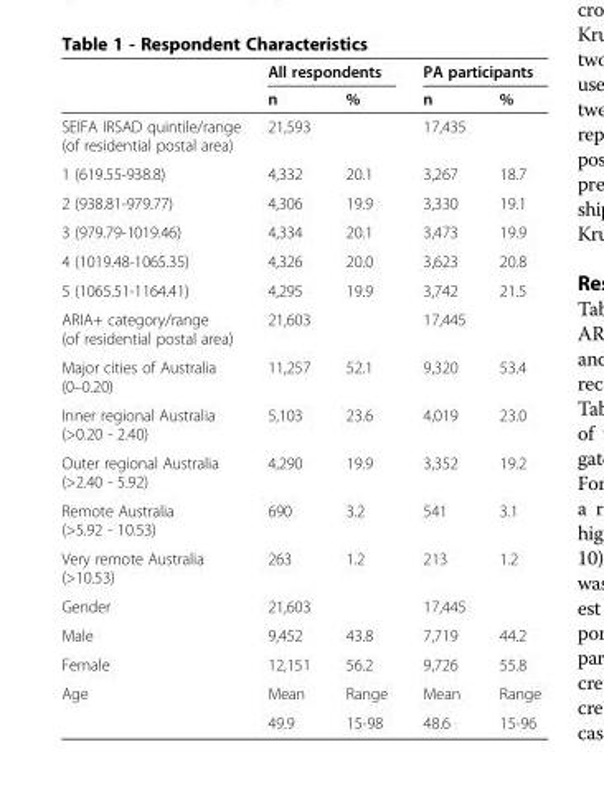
<table><thead><tr><td rowspan="2"></td><td colspan="2">All respondents</td><td colspan="2">PA participants</td></tr><tr><td>n</td><td>%</td><td>n</td><td>%</td></tr></thead><tbody><tr><td>SEIFA IRSAD quintile/range (of residential postal area)</td><td>21,593</td><td></td><td>17,435</td><td></td></tr><tr><td>1 (619.55-938.8)</td><td>4,332</td><td>20.1</td><td>3,267</td><td>18.7</td></tr><tr><td>2 (938.81-979.77)</td><td>4,306</td><td>19.9</td><td>3,330</td><td>19.1</td></tr><tr><td>3 (979.79-1019.46)</td><td>4,334</td><td>20.1</td><td>3,473</td><td>19.9</td></tr><tr><td>4 (1019.48-1065.35)</td><td>4,326</td><td>20.0</td><td>3,623</td><td>20.8</td></tr><tr><td>5 (1065.51-1164.41)</td><td>4,295</td><td>19.9</td><td>3,742</td><td>21.5</td></tr><tr><td>ARIA+ category/range (of residential postal area)</td><td>21,603</td><td></td><td>17,445</td><td></td></tr><tr><td>Major cities of Australia (0–0.20)</td><td>11,257</td><td>52.1</td><td>9,320</td><td>53.4</td></tr><tr><td>Inner regional Australia (&gt;0.20 - 2.40)</td><td>5,103</td><td>23.6</td><td>4,019</td><td>23.0</td></tr><tr><td>Outer regional Australia (&gt;2.40 - 5.92)</td><td>4,290</td><td>19.9</td><td>3,352</td><td>19.2</td></tr><tr><td>Remote Australia (&gt;5.92 - 10.53)</td><td>690</td><td>3.2</td><td>541</td><td>3.1</td></tr><tr><td>Very remote Australia (&gt;10.53)</td><td>263</td><td>1.2</td><td>213</td><td>1.2</td></tr><tr><td>Gender</td><td>21,603</td><td></td><td>17,445</td><td></td></tr><tr><td>Male</td><td>9,452</td><td>43.8</td><td>7,719</td><td>44.2</td></tr><tr><td>Female</td><td>12,151</td><td>56.2</td><td>9,726</td><td>55.8</td></tr><tr><td rowspan="2">Age</td><td>Mean</td><td>Range</td><td>Mean</td><td>Range</td></tr><tr><td>49.9</td><td>15-98</td><td>48.6</td><td>15-96</td></tr></tbody></table>